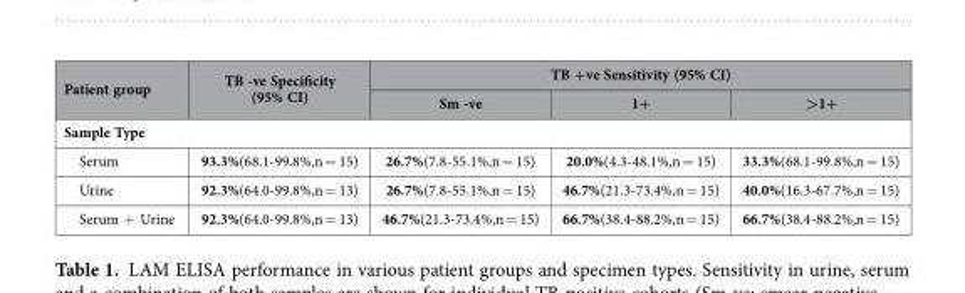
<table><thead><tr><td rowspan="2">Patient group</td><td rowspan="2">TB -ve Specificity (95% CI)</td><td colspan="3">TB +ve Sensitivity (95% CI)</td></tr><tr><td>Sm -ve</td><td>1+</td><td>&gt;1+</td></tr></thead><tbody><tr><td colspan="5">Sample Type</td></tr><tr><td>Serum</td><td>93.3%(68.1-99.8%,n = 15)</td><td>26.7%(7.8-55.1%,n = 15)</td><td>20.0%(4.3-48.1%,n = 15)</td><td>33.3%(68.1-99.8%,n = 15)</td></tr><tr><td>Urine</td><td>92.3%(64.0-99.8%,n = 13)</td><td>26.7%(7.8-55.1%,n = 15)</td><td>46.7%(21.3-73.4%,n = 15)</td><td>40.0%(16.3-67.7%,n = 15)</td></tr><tr><td>Serum + Urine</td><td>92.3%(64.0-99.8%,n = 13)</td><td>46.7%(21.3-73.4%,n = 15)</td><td>66.7%(38.4-88.2%,n = 15)</td><td>66.7%(38.4-88.2%,n = 15)</td></tr></tbody></table>